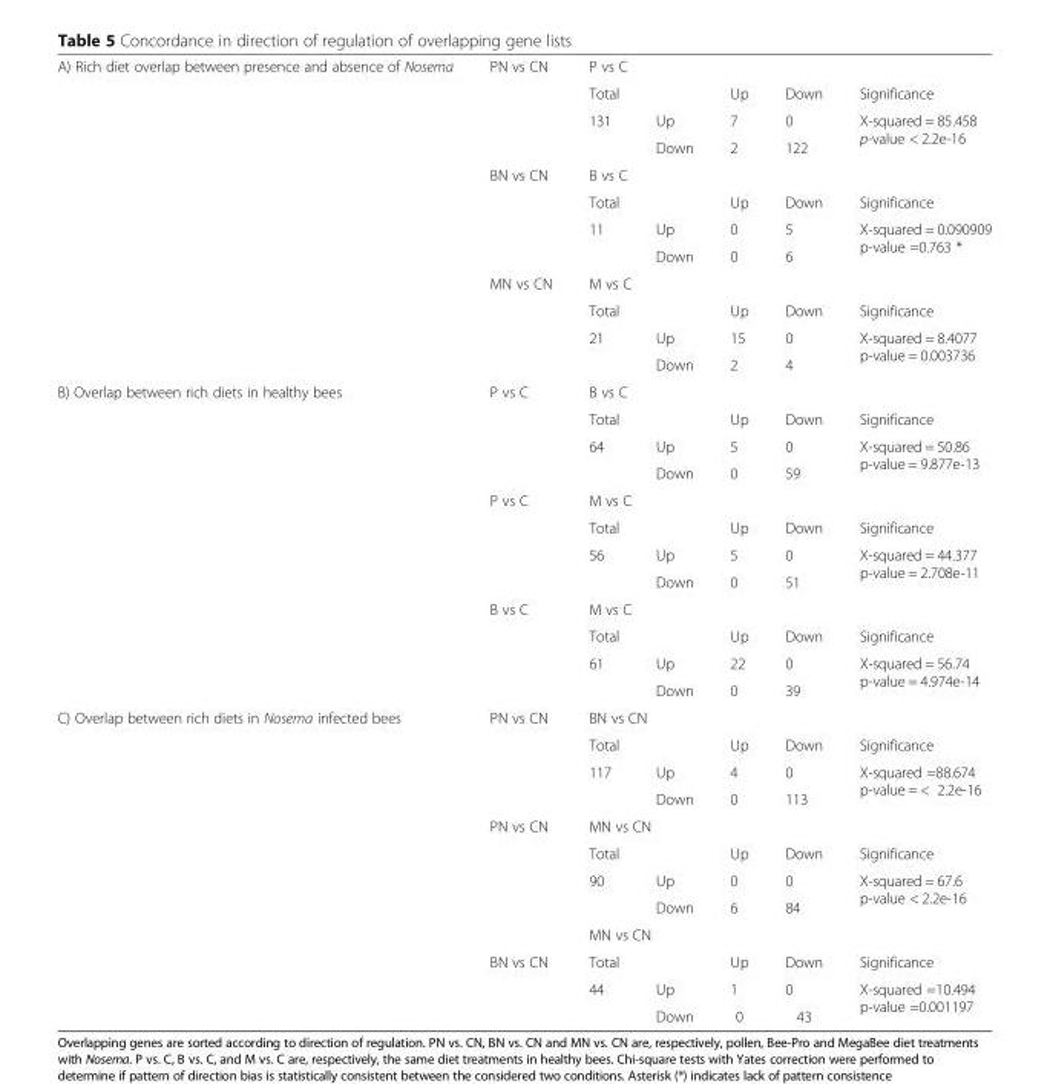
<table><tbody><tr><td rowspan="12">A) Rich diet overlap between presence and absence of Nosema</td><td rowspan="4">PN vs CN</td><td colspan="5">P vs C</td></tr><tr><td>Total</td><td></td><td>Up</td><td>Down</td><td>Significance</td></tr><tr><td rowspan="2">131</td><td>Up</td><td>7</td><td>0</td><td rowspan="2">X-squared = 85.458 p-value &lt; 2.2e-16</td></tr><tr><td>Down</td><td>2</td><td>122</td></tr><tr><td rowspan="4">BN vs CN</td><td colspan="5">B vs C</td></tr><tr><td>Total</td><td></td><td>Up</td><td>Down</td><td>Significance</td></tr><tr><td rowspan="2">11</td><td>Up</td><td>0</td><td>5</td><td rowspan="2">X-squared = 0.090909 p-value =0.763 *</td></tr><tr><td>Down</td><td>0</td><td>6</td></tr><tr><td rowspan="4">MN vs CN</td><td colspan="5">M vs C</td></tr><tr><td>Total</td><td></td><td>Up</td><td>Down</td><td>Significance</td></tr><tr><td rowspan="2">21</td><td>Up</td><td>15</td><td>0</td><td rowspan="2">X-squared = 8.4077 p-value = 0.003736</td></tr><tr><td>Down</td><td>2</td><td>4</td></tr><tr><td rowspan="12">B) Overlap between rich diets in healthy bees</td><td rowspan="4">P vs C</td><td colspan="5">B vs C</td></tr><tr><td>Total</td><td></td><td>Up</td><td>Down</td><td>Significance</td></tr><tr><td rowspan="2">64</td><td>Up</td><td>5</td><td>0</td><td rowspan="2">X-squared = 50.86 p-value = 9.877e-13</td></tr><tr><td>Down</td><td>0</td><td>59</td></tr><tr><td rowspan="4">P vs C</td><td colspan="5">M vs C</td></tr><tr><td>Total</td><td></td><td>Up</td><td>Down</td><td>Significance</td></tr><tr><td rowspan="2">56</td><td>Up</td><td>5</td><td>0</td><td rowspan="2">X-squared = 44.377 p-value = 2.708e-11</td></tr><tr><td>Down</td><td>0</td><td>51</td></tr><tr><td rowspan="4">B vs C</td><td colspan="5">M vs C</td></tr><tr><td>Total</td><td></td><td>Up</td><td>Down</td><td>Significance</td></tr><tr><td rowspan="2">61</td><td>Up</td><td>22</td><td>0</td><td rowspan="2">X-squared = 56.74 p-value = 4.974e-14</td></tr><tr><td>Down</td><td>0</td><td>39</td></tr><tr><td rowspan="12">C) Overlap between rich diets in Nosema infected bees</td><td rowspan="4">PN vs CN</td><td colspan="5">BN vs CN</td></tr><tr><td>Total</td><td></td><td>Up</td><td>Down</td><td>Significance</td></tr><tr><td rowspan="2">117</td><td>Up</td><td>4</td><td>0</td><td rowspan="2">X-squared =88.674 p-value = &lt; 2.2e-16</td></tr><tr><td>Down</td><td>0</td><td>113</td></tr><tr><td rowspan="5">PN vs CN</td><td colspan="5">MN vs CN</td></tr><tr><td>Total</td><td></td><td>Up</td><td>Down</td><td>Significance</td></tr><tr><td rowspan="2">90</td><td>Up</td><td>0</td><td>0</td><td rowspan="2">X-squared = 67.6 p-value &lt; 2.2e-16</td></tr><tr><td>Down</td><td>6</td><td>84</td></tr><tr><td colspan="5">MN vs CN</td></tr><tr><td rowspan="3">BN vs CN</td><td>Total</td><td></td><td>Up</td><td>Down</td><td>Significance</td></tr><tr><td rowspan="2">44</td><td>Up</td><td>1</td><td>0</td><td rowspan="2">X-squared =10.494 p-value =0.001197</td></tr><tr><td>Down</td><td>0</td><td>43</td></tr></tbody></table>